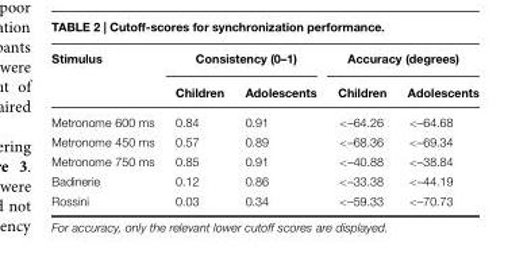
<table><thead><tr><td rowspan="2">Stimulus</td><td colspan="2">Consistency (0–1)</td><td colspan="2">Accuracy (degrees)</td></tr><tr><td>Children</td><td>Adolescents</td><td>Children</td><td>Adolescents</td></tr></thead><tbody><tr><td>Metronome 600 ms</td><td>0.84</td><td>0.91</td><td>&lt;–64.26</td><td>&lt;–64.68</td></tr><tr><td>Metronome 450 ms</td><td>0.57</td><td>0.89</td><td>&lt;–68.36</td><td>&lt;–69.34</td></tr><tr><td>Metronome 750 ms</td><td>0.85</td><td>0.91</td><td>&lt;–40.88</td><td>&lt;–38.84</td></tr><tr><td>Badinerie</td><td>0.12</td><td>0.86</td><td>&lt;–33.38</td><td>&lt;–44.19</td></tr><tr><td>Rossini</td><td>0.03</td><td>0.34</td><td>&lt;–59.33</td><td>&lt;–70.73</td></tr></tbody></table>